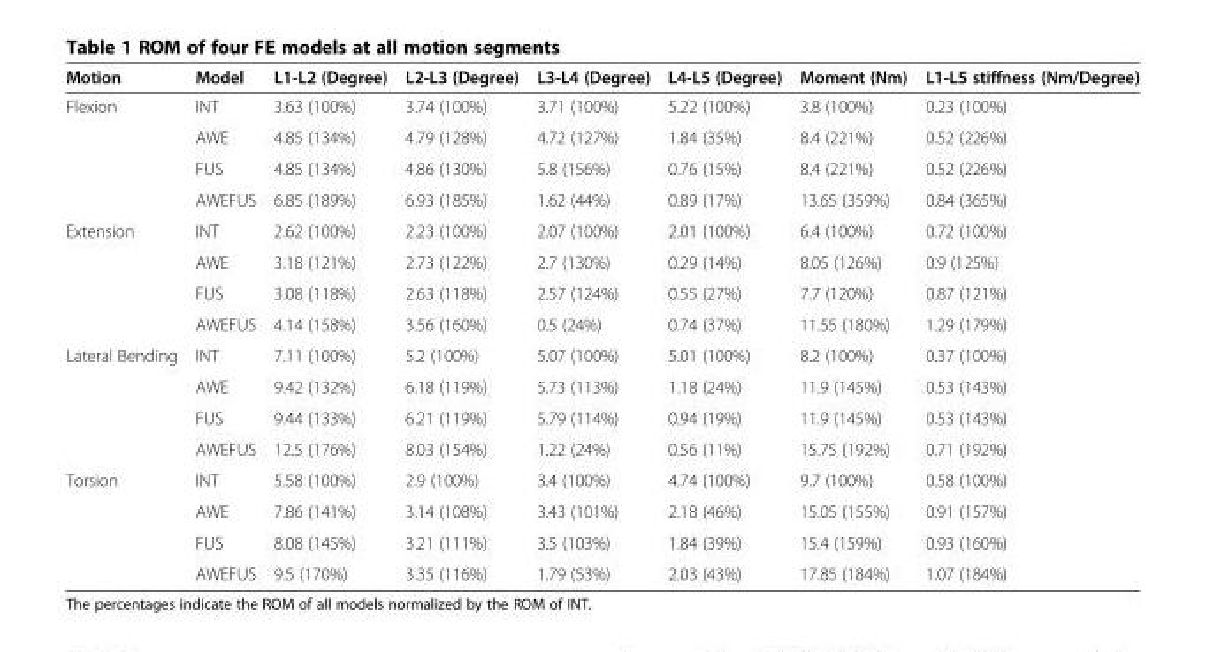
<table><thead><tr><td>Motion</td><td>Model</td><td>L1-L2 (Degree)</td><td>L2-L3 (Degree)</td><td>L3-L4 (Degree)</td><td>L4-L5 (Degree)</td><td>Moment (Nm)</td><td>L1-L5 stiffness (Nm/Degree)</td></tr></thead><tbody><tr><td rowspan="4">Flexion</td><td>INT</td><td>3.63 (100%)</td><td>3.74 (100%)</td><td>3.71 (100%)</td><td>5.22 (100%)</td><td>3.8 (100%)</td><td>0.23 (100%)</td></tr><tr><td>AWE</td><td>4.85 (134%)</td><td>4.79 (128%)</td><td>4.72 (127%)</td><td>1.84 (35%)</td><td>8.4 (221%)</td><td>0.52 (226%)</td></tr><tr><td>FUS</td><td>4.85 (134%)</td><td>4.86 (130%)</td><td>5.8 (156%)</td><td>0.76 (15%)</td><td>8.4 (221%)</td><td>0.52 (226%)</td></tr><tr><td>AWEFUS</td><td>6.85 (189%)</td><td>6.93 (185%)</td><td>1.62 (44%)</td><td>0.89 (17%)</td><td>13.65 (359%)</td><td>0.84 (365%)</td></tr><tr><td rowspan="4">Extension</td><td>INT</td><td>2.62 (100%)</td><td>2.23 (100%)</td><td>2.07 (100%)</td><td>2.01 (100%)</td><td>6.4 (100%)</td><td>0.72 (100%)</td></tr><tr><td>AWE</td><td>3.18 (121%)</td><td>2.73 (122%)</td><td>2.7 (130%)</td><td>0.29 (14%)</td><td>8.05 (126%)</td><td>0.9 (125%)</td></tr><tr><td>FUS</td><td>3.08 (118%)</td><td>2.63 (118%)</td><td>2.57 (124%)</td><td>0.55 (27%)</td><td>7.7 (120%)</td><td>0.87 (121%)</td></tr><tr><td>AWEFUS</td><td>4.14 (158%)</td><td>3.56 (160%)</td><td>0.5 (24%)</td><td>0.74 (37%)</td><td>11.55 (180%)</td><td>1.29 (179%)</td></tr><tr><td rowspan="4">Lateral Bending</td><td>INT</td><td>7.11 (100%)</td><td>5.2 (100%)</td><td>5.07 (100%)</td><td>5.01 (100%)</td><td>8.2 (100%)</td><td>0.37 (100%)</td></tr><tr><td>AWE</td><td>9.42 (132%)</td><td>6.18 (119%)</td><td>5.73 (113%)</td><td>1.18 (24%)</td><td>11.9 (145%)</td><td>0.53 (143%)</td></tr><tr><td>FUS</td><td>9.44 (133%)</td><td>6.21 (119%)</td><td>5.79 (114%)</td><td>0.94 (19%)</td><td>11.9 (145%)</td><td>0.53 (143%)</td></tr><tr><td>AWEFUS</td><td>12.5 (176%)</td><td>8.03 (154%)</td><td>1.22 (24%)</td><td>0.56 (11%)</td><td>15.75 (192%)</td><td>0.71 (192%)</td></tr><tr><td rowspan="4">Torsion</td><td>INT</td><td>5.58 (100%)</td><td>2.9 (100%)</td><td>3.4 (100%)</td><td>4.74 (100%)</td><td>9.7 (100%)</td><td>0.58 (100%)</td></tr><tr><td>AWE</td><td>7.86 (141%)</td><td>3.14 (108%)</td><td>3.43 (101%)</td><td>2.18 (46%)</td><td>15.05 (155%)</td><td>0.91 (157%)</td></tr><tr><td>FUS</td><td>8.08 (145%)</td><td>3.21 (111%)</td><td>3.5 (103%)</td><td>1.84 (39%)</td><td>15.4 (159%)</td><td>0.93 (160%)</td></tr><tr><td>AWEFUS</td><td>9.5 (170%)</td><td>3.35 (116%)</td><td>1.79 (53%)</td><td>2.03 (43%)</td><td>17.85 (184%)</td><td>1.07 (184%)</td></tr></tbody></table>